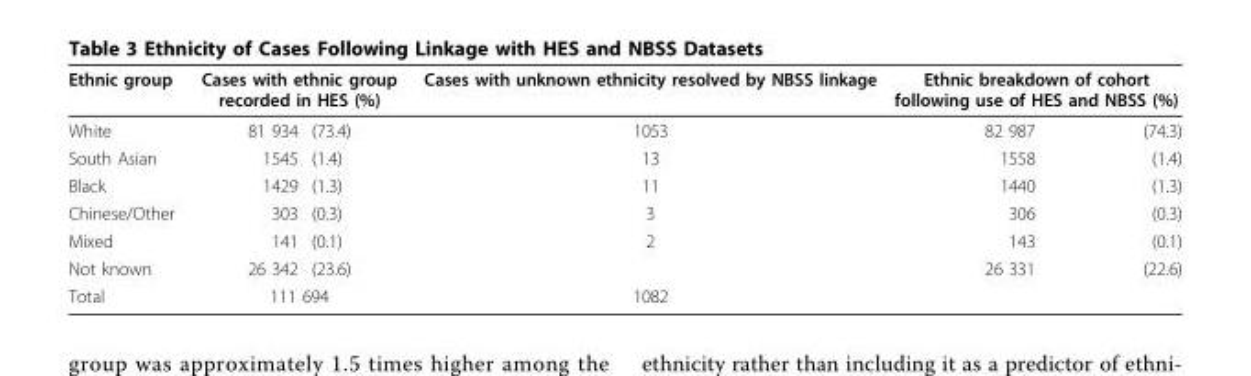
<table><thead><tr><td rowspan="2">Ethnic group White</td><td colspan="2">Cases with ethnic group recorded in HES (%)</td><td rowspan="2">Cases with unknown ethnicity resolved by NBSS linkage 1053</td><td colspan="2">Ethnic breakdown of cohort following use of HES and NBSS (%)</td></tr><tr><td>81 934</td><td>(73.4)</td><td>82 987</td><td>(74.3)</td></tr></thead><tbody><tr><td>South Asian</td><td>1545</td><td>(1.4)</td><td>13</td><td>1558</td><td>(1.4)</td></tr><tr><td>Black</td><td>1429</td><td>(1.3)</td><td>11</td><td>1440</td><td>(1.3)</td></tr><tr><td>Chinese/Other</td><td>303</td><td>(0.3)</td><td>3</td><td>306</td><td>(0.3)</td></tr><tr><td>Mixed</td><td>141</td><td>(0.1)</td><td>2</td><td>143</td><td>(0.1)</td></tr><tr><td>Not known</td><td>26 342</td><td>(23.6)</td><td></td><td>26 331</td><td>(22.6)</td></tr><tr><td>Total</td><td colspan="2">111 694</td><td>1082</td><td colspan="2"></td></tr></tbody></table>